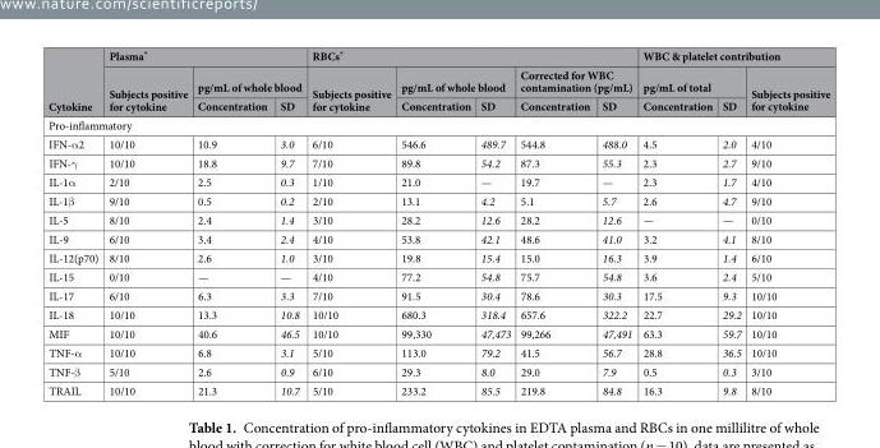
<table><thead><tr><td rowspan="3">Cytokine</td><td colspan="3">Plasma*</td><td colspan="5">RBCs*</td><td colspan="3">WBC &amp; platelet contribution</td></tr><tr><td rowspan="2">Subjects positive for cytokine</td><td colspan="2">pg/mL of whole blood</td><td rowspan="2">Subjects positive for cytokine</td><td colspan="2">pg/mL of whole blood</td><td colspan="2">Corrected for WBC contamination (pg/mL)</td><td colspan="2">pg/mL of total</td><td rowspan="2">Subjects positive for cytokine</td></tr><tr><td>Concentration</td><td>SD</td><td>Concentration</td><td>SD</td><td>Concentration</td><td>SD</td><td>Concentration</td><td>SD</td></tr></thead><tbody><tr><td colspan="12">Pro-inflammatory</td></tr><tr><td>IFN-α2</td><td>10/10</td><td>10.9</td><td>3.0</td><td>6/10</td><td>546.6</td><td>489.7</td><td>544.8</td><td>488.0</td><td>4.5</td><td>2.0</td><td>4/10</td></tr><tr><td>IFN-γ</td><td>10/10</td><td>18.8</td><td>9.7</td><td>7/10</td><td>89.8</td><td>54.2</td><td>87.3</td><td>55.3</td><td>2.3</td><td>2.7</td><td>9/10</td></tr><tr><td>IL-1α</td><td>2/10</td><td>2.5</td><td>0.3</td><td>1/10</td><td>21.0</td><td>—</td><td>19.7</td><td>—</td><td>2.3</td><td>1.7</td><td>4/10</td></tr><tr><td>IL-1β</td><td>9/10</td><td>0.5</td><td>0.2</td><td>2/10</td><td>13.1</td><td>4.2</td><td>5.1</td><td>5.7</td><td>2.6</td><td>4.7</td><td>9/10</td></tr><tr><td>IL-5</td><td>8/10</td><td>2.4</td><td>1.4</td><td>3/10</td><td>28.2</td><td>12.6</td><td>28.2</td><td>12.6</td><td>—</td><td>—</td><td>0/10</td></tr><tr><td>IL-9</td><td>6/10</td><td>3.4</td><td>2.4</td><td>4/10</td><td>53.8</td><td>42.1</td><td>48.6</td><td>41.0</td><td>3.2</td><td>4.1</td><td>8/10</td></tr><tr><td>IL-12(p70)</td><td>8/10</td><td>2.6</td><td>1.0</td><td>3/10</td><td>19.8</td><td>15.4</td><td>15.0</td><td>16.3</td><td>3.9</td><td>1.4</td><td>6/10</td></tr><tr><td>IL-15</td><td>0/10</td><td>—</td><td>—</td><td>4/10</td><td>77.2</td><td>54.8</td><td>75.7</td><td>54.8</td><td>3.6</td><td>2.4</td><td>5/10</td></tr><tr><td>IL-17</td><td>6/10</td><td>6.3</td><td>3.3</td><td>7/10</td><td>91.5</td><td>30.4</td><td>78.6</td><td>30.3</td><td>17.5</td><td>9.3</td><td>10/10</td></tr><tr><td>IL-18</td><td>10/10</td><td>13.3</td><td>10.8</td><td>10/10</td><td>680.3</td><td>318.4</td><td>657.6</td><td>322.2</td><td>22.7</td><td>29.2</td><td>10/10</td></tr><tr><td>MIF</td><td>10/10</td><td>40.6</td><td>46.5</td><td>10/10</td><td>99,330</td><td>47,473</td><td>99,266</td><td>47,491</td><td>63.3</td><td>59.7</td><td>10/10</td></tr><tr><td>TNF-α</td><td>10/10</td><td>6.8</td><td>3.1</td><td>5/10</td><td>113.0</td><td>79.2</td><td>41.5</td><td>56.7</td><td>28.8</td><td>36.5</td><td>10/10</td></tr><tr><td>TNF-β</td><td>5/10</td><td>2.6</td><td>0.9</td><td>6/10</td><td>29.3</td><td>8.0</td><td>29.0</td><td>7.9</td><td>0.5</td><td>0.3</td><td>3/10</td></tr><tr><td>TRAIL</td><td>10/10</td><td>21.3</td><td>10.7</td><td>5/10</td><td>233.2</td><td>85.5</td><td>219.8</td><td>84.8</td><td>16.3</td><td>9.8</td><td>8/10</td></tr></tbody></table>